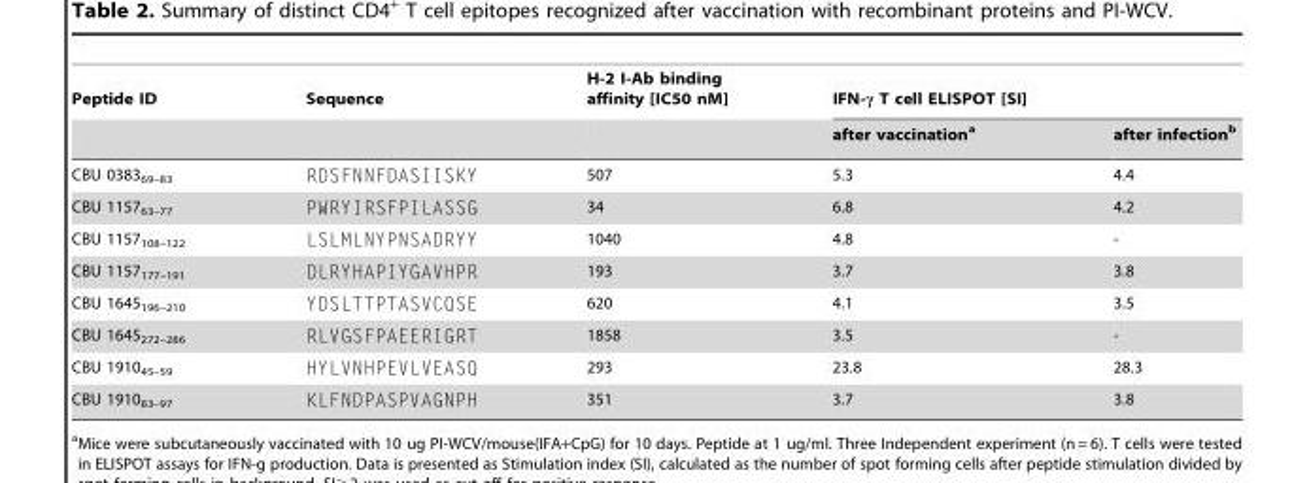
<table><thead><tr><td rowspan="2">Peptide ID</td><td rowspan="2">Sequence</td><td rowspan="2">H-2 I-Ab binding affinity [IC50 nM]</td><td colspan="2">IFN-γ T cell ELISPOT [SI]</td></tr><tr><td>after vaccination<sup>a</sup></td><td>after infection<sup>b</sup></td></tr></thead><tbody><tr><td>CBU 0383<sub>69–83</sub></td><td>RDSFNNFDASIISKY</td><td>507</td><td>5.3</td><td>4.4</td></tr><tr><td>CBU 1157<sub>63–77</sub></td><td>PWRYIRSFPILASSG</td><td>34</td><td>6.8</td><td>4.2</td></tr><tr><td>CBU 1157<sub>108–122</sub></td><td>LSLMLNYPNSADRYY</td><td>1040</td><td>4.8</td><td>-</td></tr><tr><td>CBU 1157<sub>177–191</sub></td><td>DLRYHAPIYGAVHPR</td><td>193</td><td>3.7</td><td>3.8</td></tr><tr><td>CBU 1645<sub>196–210</sub></td><td>YDSLTTPTASVCQSE</td><td>620</td><td>4.1</td><td>3.5</td></tr><tr><td>CBU 1645<sub>272–286</sub></td><td>RLVGSFPAEERIGRT</td><td>1858</td><td>3.5</td><td>-</td></tr><tr><td>CBU 1910<sub>45–59</sub></td><td>HYLVNHPEVLVEASQ</td><td>293</td><td>23.8</td><td>28.3</td></tr><tr><td>CBU 1910<sub>83–97</sub></td><td>KLFNDPASPVAGNPH</td><td>351</td><td>3.7</td><td>3.8</td></tr></tbody></table>